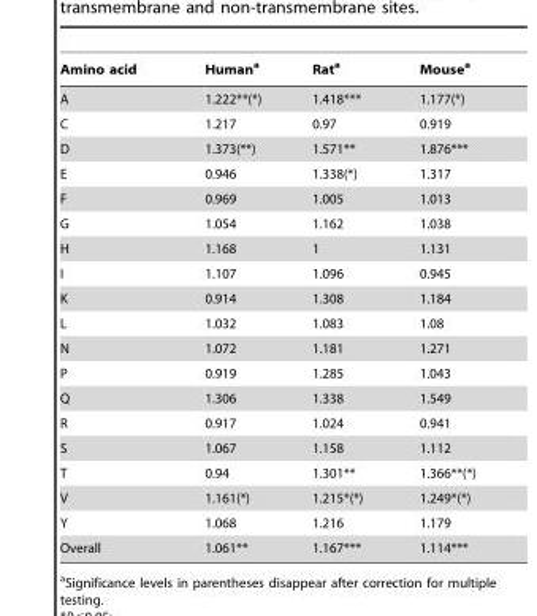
<table><thead><tr><td>Amino acid</td><td>Human<sup>a</sup></td><td>Rat<sup>a</sup></td><td>Mouse<sup>a</sup></td></tr></thead><tbody><tr><td>A</td><td>1.222**(*)</td><td>1.418***</td><td>1.177(*)</td></tr><tr><td>C</td><td>1.217</td><td>0.97</td><td>0.919</td></tr><tr><td>D</td><td>1.373(**)</td><td>1.571**</td><td>1.876***</td></tr><tr><td>E</td><td>0.946</td><td>1.338(*)</td><td>1.317</td></tr><tr><td>F</td><td>0.969</td><td>1.005</td><td>1.013</td></tr><tr><td>G</td><td>1.054</td><td>1.162</td><td>1.038</td></tr><tr><td>H</td><td>1.168</td><td>1</td><td>1.131</td></tr><tr><td>I</td><td>1.107</td><td>1.096</td><td>0.945</td></tr><tr><td>K</td><td>0.914</td><td>1.308</td><td>1.184</td></tr><tr><td>L</td><td>1.032</td><td>1.083</td><td>1.08</td></tr><tr><td>N</td><td>1.072</td><td>1.181</td><td>1.271</td></tr><tr><td>P</td><td>0.919</td><td>1.285</td><td>1.043</td></tr><tr><td>Q</td><td>1.306</td><td>1.338</td><td>1.549</td></tr><tr><td>R</td><td>0.917</td><td>1.024</td><td>0.941</td></tr><tr><td>S</td><td>1.067</td><td>1.158</td><td>1.112</td></tr><tr><td>T</td><td>0.94</td><td>1.301**</td><td>1.366**(*)</td></tr><tr><td>V</td><td>1.161(*)</td><td>1.215*(*)</td><td>1.249*(*)</td></tr><tr><td>Y</td><td>1.068</td><td>1.216</td><td>1.179</td></tr><tr><td>Overall</td><td>1.061**</td><td>1.167***</td><td>1.114***</td></tr></tbody></table>